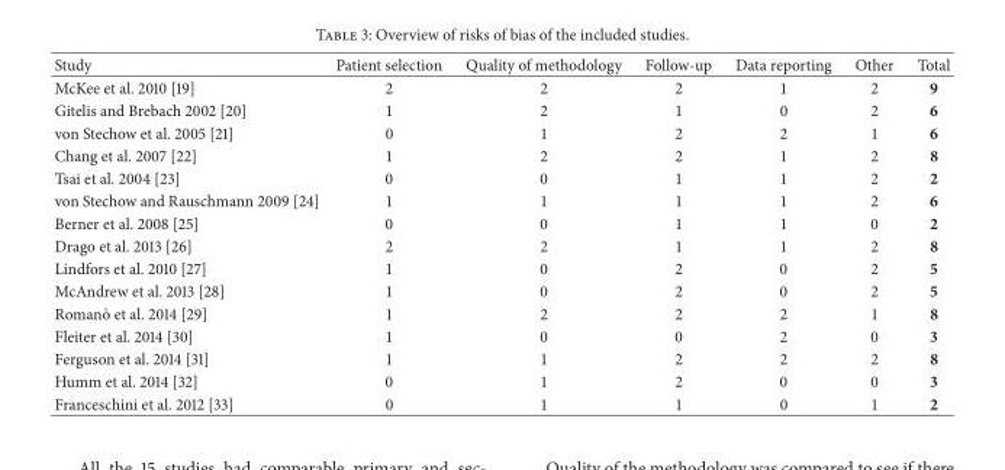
<table><thead><tr><td>Study</td><td>Patient selection</td><td>Quality of methodology</td><td>Follow-up</td><td>Data reporting</td><td>Other</td><td>Total</td></tr></thead><tbody><tr><td>McKee et al. 2010 [19]</td><td>2</td><td>2</td><td>2</td><td>1</td><td>2</td><td>9</td></tr><tr><td>Gitelis and Brebach 2002 [20]</td><td>1</td><td>2</td><td>1</td><td>0</td><td>2</td><td>6</td></tr><tr><td>von Stechow et al. 2005 [21]</td><td>0</td><td>1</td><td>2</td><td>2</td><td>1</td><td>6</td></tr><tr><td>Chang et al. 2007 [22]</td><td>1</td><td>2</td><td>2</td><td>1</td><td>2</td><td>8</td></tr><tr><td>Tsai et al. 2004 [23]</td><td>0</td><td>0</td><td>1</td><td>1</td><td>2</td><td>2</td></tr><tr><td>von Stechow and Rauschmann 2009 [24]</td><td>1</td><td>1</td><td>1</td><td>1</td><td>2</td><td>6</td></tr><tr><td>Berner et al. 2008 [25]</td><td>0</td><td>0</td><td>1</td><td>1</td><td>0</td><td>2</td></tr><tr><td>Drago et al. 2013 [26]</td><td>2</td><td>2</td><td>1</td><td>1</td><td>2</td><td>8</td></tr><tr><td>Lindfors et al. 2010 [27]</td><td>1</td><td>0</td><td>2</td><td>0</td><td>2</td><td>5</td></tr><tr><td>McAndrew et al. 2013 [28]</td><td>1</td><td>0</td><td>2</td><td>0</td><td>2</td><td>5</td></tr><tr><td>Roman`o et al. 2014 [29]</td><td>1</td><td>2</td><td>2</td><td>2</td><td>1</td><td>8</td></tr><tr><td>Fleiter et al. 2014 [30]</td><td>1</td><td>0</td><td>0</td><td>2</td><td>0</td><td>3</td></tr><tr><td>Ferguson et al. 2014 [31]</td><td>1</td><td>1</td><td>2</td><td>2</td><td>2</td><td>8</td></tr><tr><td>Humm et al. 2014 [32]</td><td>0</td><td>1</td><td>2</td><td>0</td><td>0</td><td>3</td></tr><tr><td>Franceschini et al. 2012 [33]</td><td>0</td><td>1</td><td>1</td><td>0</td><td>1</td><td>2</td></tr></tbody></table>